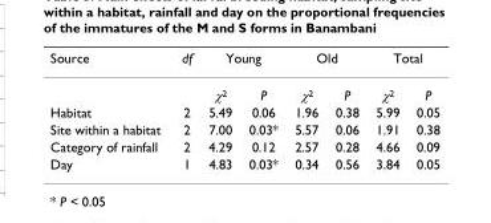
<table><thead><tr><td rowspan="2">Source</td><td rowspan="2">df</td><td colspan="2">Young</td><td colspan="2">Old</td><td colspan="2">Total</td></tr><tr><td>χ<sup>2</sup></td><td>P</td><td>χ<sup>2</sup></td><td>P</td><td>χ<sup>2</sup></td><td>P</td></tr></thead><tbody><tr><td>Habitat</td><td>2</td><td>5.49</td><td>0.06</td><td>1.96</td><td>0.38</td><td>5.99</td><td>0.05</td></tr><tr><td>Site within a habitat</td><td>2</td><td>7.00</td><td>0.03*</td><td>5.57</td><td>0.06</td><td>1.91</td><td>0.38</td></tr><tr><td>Category of rainfall</td><td>2</td><td>4.29</td><td>0.12</td><td>2.57</td><td>0.28</td><td>4.66</td><td>0.09</td></tr><tr><td>Day</td><td>1</td><td>4.83</td><td>0.03*</td><td>0.34</td><td>0.56</td><td>3.84</td><td>0.05</td></tr></tbody></table>